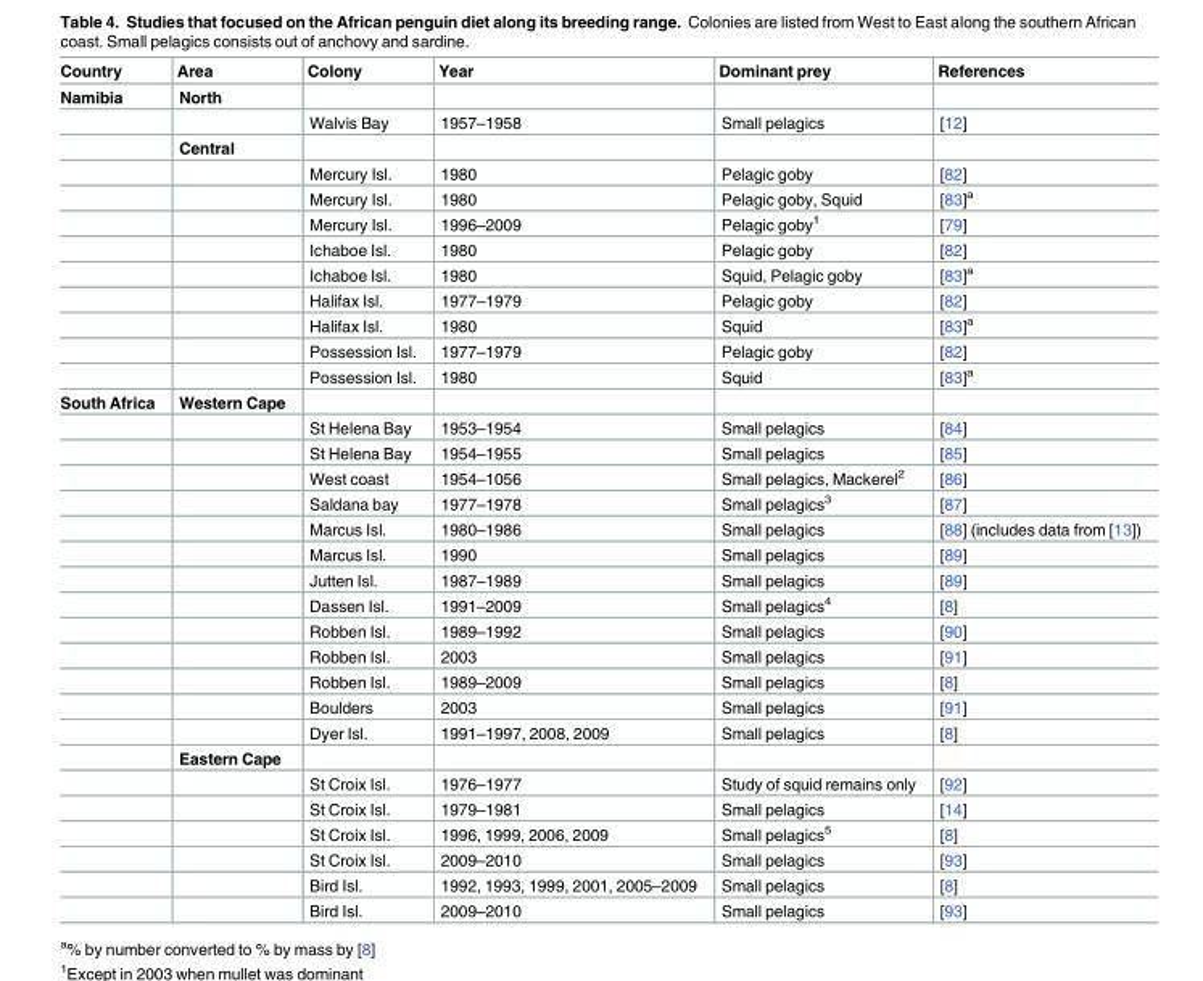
<table><thead><tr><td>Country</td><td>Area</td><td>Colony</td><td>Year</td><td>Dominant prey</td><td>References</td></tr></thead><tbody><tr><td rowspan="12">Namibia</td><td>North</td><td></td><td></td><td></td><td></td></tr><tr><td></td><td>Walvis Bay</td><td>1957–1958</td><td>Small pelagics</td><td>[12]</td></tr><tr><td>Central</td><td></td><td></td><td></td><td></td></tr><tr><td></td><td>Mercury Isl.</td><td>1980</td><td>Pelagic goby</td><td>[82]</td></tr><tr><td></td><td>Mercury Isl.</td><td>1980</td><td>Pelagic goby, Squid</td><td>[83]<sup>a</sup></td></tr><tr><td></td><td>Mercury Isl.</td><td>1996–2009</td><td>Pelagic goby<sup>1</sup></td><td>[79]</td></tr><tr><td></td><td>Ichaboe Isl.</td><td>1980</td><td>Pelagic goby</td><td>[82]</td></tr><tr><td></td><td>Ichaboe Isl.</td><td>1980</td><td>Squid, Pelagic goby</td><td>[83]<sup>a</sup></td></tr><tr><td></td><td>Halifax Isl.</td><td>1977–1979</td><td>Pelagic goby</td><td>[82]</td></tr><tr><td></td><td>Halifax Isl.</td><td>1980</td><td>Squid</td><td>[83]<sup>a</sup></td></tr><tr><td></td><td>Possession Isl.</td><td>1977–1979</td><td>Pelagic goby</td><td>[82]</td></tr><tr><td></td><td>Possession Isl.</td><td>1980</td><td>Squid</td><td>[83]<sup>a</sup></td></tr><tr><td rowspan="21">South Africa</td><td>Western Cape</td><td></td><td></td><td></td><td></td></tr><tr><td></td><td>St Helena Bay</td><td>1953–1954</td><td>Small pelagics</td><td>[84]</td></tr><tr><td></td><td>St Helena Bay</td><td>1954–1955</td><td>Small pelagics</td><td>[85]</td></tr><tr><td></td><td>West coast</td><td>1954–1056</td><td>Small pelagics, Mackerel<sup>2</sup></td><td>[86]</td></tr><tr><td></td><td>Saldana bay</td><td>1977–1978</td><td>Small pelagics<sup>3</sup></td><td>[87]</td></tr><tr><td></td><td>Marcus Isl.</td><td>1980–1986</td><td>Small pelagics</td><td>[88] (includes data from [13])</td></tr><tr><td></td><td>Marcus Isl.</td><td>1990</td><td>Small pelagics</td><td>[89]</td></tr><tr><td></td><td>Jutten Isl.</td><td>1987–1989</td><td>Small pelagics</td><td>[89]</td></tr><tr><td></td><td>Dassen Isl.</td><td>1991–2009</td><td>Small pelagics<sup>4</sup></td><td>[8]</td></tr><tr><td></td><td>Robben Isl.</td><td>1989–1992</td><td>Small pelagics</td><td>[90]</td></tr><tr><td></td><td>Robben Isl.</td><td>2003</td><td>Small pelagics</td><td>[91]</td></tr><tr><td></td><td>Robben Isl.</td><td>1989–2009</td><td>Small pelagics</td><td>[8]</td></tr><tr><td></td><td>Boulders</td><td>2003</td><td>Small pelagics</td><td>[91]</td></tr><tr><td></td><td>Dyer Isl.</td><td>1991–1997, 2008, 2009</td><td>Small pelagics</td><td>[8]</td></tr><tr><td>Eastern Cape</td><td></td><td></td><td></td><td></td></tr><tr><td></td><td>St Croix Isl.</td><td>1976–1977</td><td>Study of squid remains only</td><td>[92]</td></tr><tr><td></td><td>St Croix Isl.</td><td>1979–1981</td><td>Small pelagics</td><td>[14]</td></tr><tr><td></td><td>St Croix Isl.</td><td>1996, 1999, 2006, 2009</td><td>Small pelagics<sup>5</sup></td><td>[8]</td></tr><tr><td></td><td>St Croix Isl.</td><td>2009–2010</td><td>Small pelagics</td><td>[93]</td></tr><tr><td></td><td>Bird Isl.</td><td>1992, 1993, 1999, 2001, 2005–2009</td><td>Small pelagics</td><td>[8]</td></tr><tr><td></td><td>Bird Isl.</td><td>2009–2010</td><td>Small pelagics</td><td>[93]</td></tr></tbody></table>